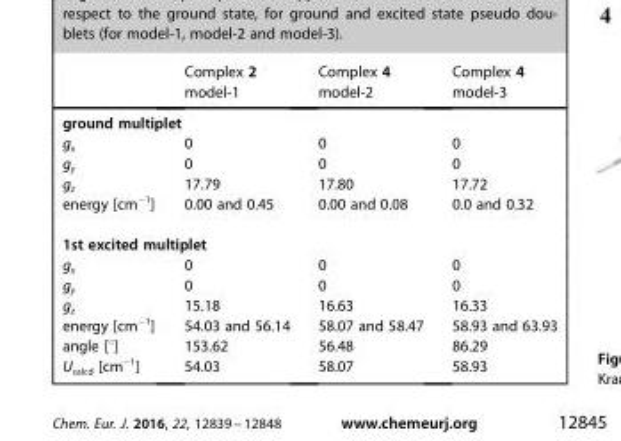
<table><thead><tr><td></td><td>Complex 2 model-1</td><td>Complex 4 model-2</td><td>Complex 4 model-3</td></tr></thead><tbody><tr><td colspan="4">ground multiplet</td></tr><tr><td>g<sub>x</sub></td><td>0</td><td>0</td><td>0</td></tr><tr><td>g<sub>y</sub></td><td>0</td><td>0</td><td>0</td></tr><tr><td>g<sub>z</sub></td><td>17.79</td><td>17.80</td><td>17.72</td></tr><tr><td>energy [cm<sup>−1</sup>]</td><td>0.00 and 0.45</td><td>0.00 and 0.08</td><td>0.0 and 0.32</td></tr><tr><td colspan="4">1st excited multiplet</td></tr><tr><td>g<sub>x</sub></td><td>0</td><td>0</td><td>0</td></tr><tr><td>g<sub>y</sub></td><td>0</td><td>0</td><td>0</td></tr><tr><td>g<sub>z</sub></td><td>15.18</td><td>16.63</td><td>16.33</td></tr><tr><td>energy [cm<sup>−1</sup>]</td><td>54.03 and 56.14</td><td>58.07 and 58.47</td><td>58.93 and 63.93</td></tr><tr><td>angle [°]</td><td>153.62</td><td>56.48</td><td>86.29</td></tr><tr><td>U<sub>calcd</sub> [cm<sup>−1</sup>]</td><td>54.03</td><td>58.07</td><td>58.93</td></tr></tbody></table>